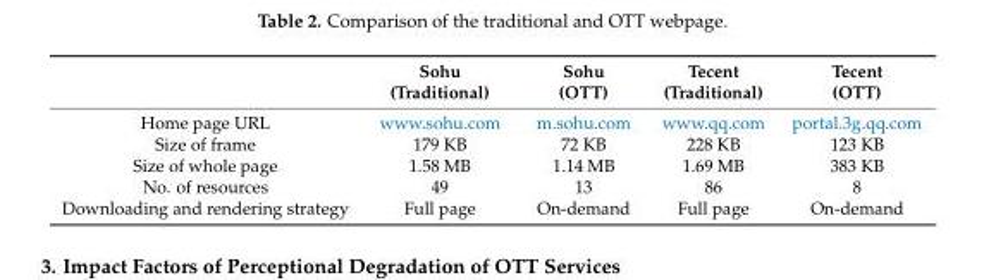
<table><thead><tr><td></td><td>Sohu (Traditional)</td><td>Sohu (OTT)</td><td>Tecent (Traditional)</td><td>Tecent (OTT)</td></tr></thead><tbody><tr><td>Home page URL</td><td>www.sohu.com</td><td>m.sohu.com</td><td>www.qq.com</td><td>portal.3g.qq.com</td></tr><tr><td>Size of frame</td><td>179 KB</td><td>72 KB</td><td>228 KB</td><td>123 KB</td></tr><tr><td>Size of whole page</td><td>1.58 MB</td><td>1.14 MB</td><td>1.69 MB</td><td>383 KB</td></tr><tr><td>No. of resources</td><td>49</td><td>13</td><td>86</td><td>8</td></tr><tr><td>Downloading and rendering strategy</td><td>Full page</td><td>On-demand</td><td>Full page</td><td>On-demand</td></tr></tbody></table>